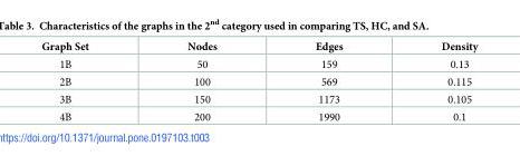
<table><thead><tr><td>Graph Set</td><td>Nodes</td><td>Edges</td><td>Density</td></tr></thead><tbody><tr><td>1B</td><td>50</td><td>159</td><td>0.13</td></tr><tr><td>2B</td><td>100</td><td>569</td><td>0.115</td></tr><tr><td>3B</td><td>150</td><td>1173</td><td>0.105</td></tr><tr><td>4B</td><td>200</td><td>1990</td><td>0.1</td></tr></tbody></table>